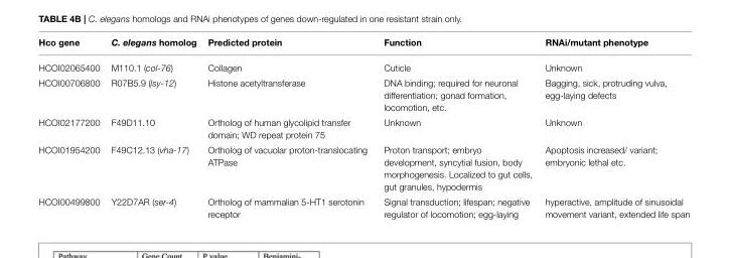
<table><thead><tr><td>Hco gene</td><td>C. elegans homolog</td><td>Predicted protein</td><td>Function</td><td>RNAi/mutant phenotype</td></tr></thead><tbody><tr><td>HCOI02065400</td><td>M110.1 (col-76)</td><td>Collagen</td><td>Cuticle</td><td>Unknown</td></tr><tr><td>HCOI00706800</td><td>R07B5.9 (lsy-12)</td><td>Histone acetyltransferase</td><td>DNA binding; required for neuronal differentiation; gonad formation, locomotion, etc.</td><td>Bagging, sick, protruding vulva, egg-laying defects</td></tr><tr><td>HCOI02177200</td><td>F49D11.10</td><td>Ortholog of human glycolipid transfer domain; WD repeat protein 75</td><td>Unknown</td><td>Unknown</td></tr><tr><td>HCOI01954200</td><td>F49C12.13 (vha-17)</td><td>Ortholog of vacuolar proton-translocating ATPase</td><td>Proton transport; embryo development, syncytial fusion, body morphogenesis. Localized to gut cells, gut granules, hypodermis</td><td>Apoptosis increased/ variant; embryonic lethal etc.</td></tr><tr><td>HCOI00499800</td><td>Y22D7AR (ser-4)</td><td>Ortholog of mammalian 5-HT1 serotonin receptor</td><td>Signal transduction; lifespan; negative regulator of locomotion; egg-laying</td><td>hyperactive, amplitude of sinusoidal movement variant, extended life span</td></tr></tbody></table>